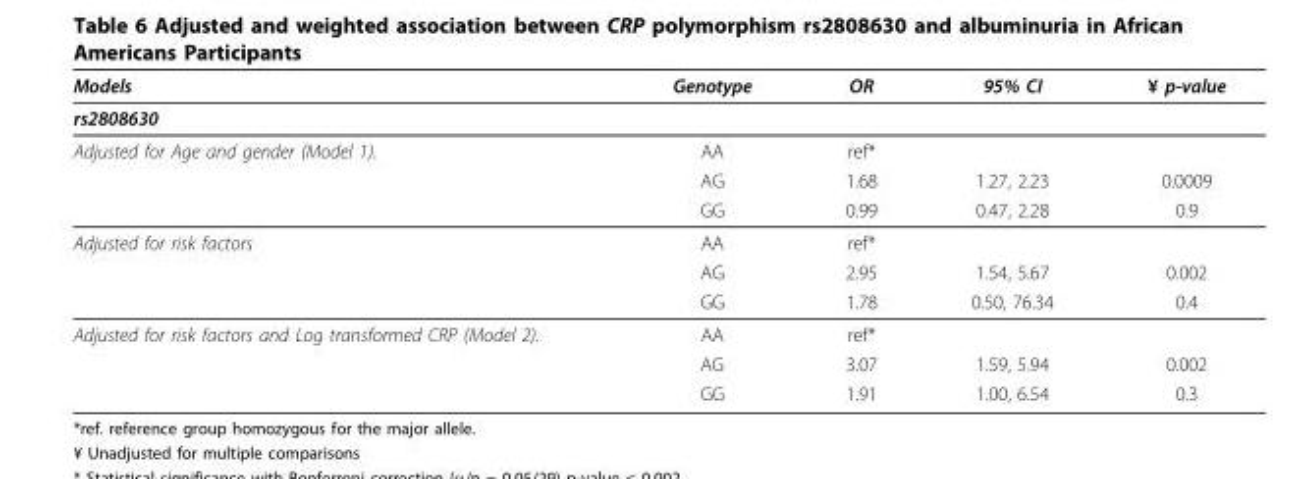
<table><thead><tr><td>Models</td><td>Genotype</td><td>OR</td><td>95% CI</td><td>¥ p-value</td></tr></thead><tbody><tr><td colspan="5">rs2808630</td></tr><tr><td rowspan="3">Adjusted for Age and gender (Model 1).</td><td>AA</td><td>ref*</td><td></td><td></td></tr><tr><td>AG</td><td>1.68</td><td>1.27, 2.23</td><td>0.0009</td></tr><tr><td>GG</td><td>0.99</td><td>0.47, 2.28</td><td>0.9</td></tr><tr><td rowspan="3">Adjusted for risk factors</td><td>AA</td><td>ref*</td><td></td><td></td></tr><tr><td>AG</td><td>2.95</td><td>1.54, 5.67</td><td>0.002</td></tr><tr><td>GG</td><td>1.78</td><td>0.50, 76.34</td><td>0.4</td></tr><tr><td rowspan="3">Adjusted for risk factors and Log transformed CRP (Model 2).</td><td>AA</td><td>ref*</td><td></td><td></td></tr><tr><td>AG</td><td>3.07</td><td>1.59, 5.94</td><td>0.002</td></tr><tr><td>GG</td><td>1.91</td><td>1.00, 6.54</td><td>0.3</td></tr></tbody></table>